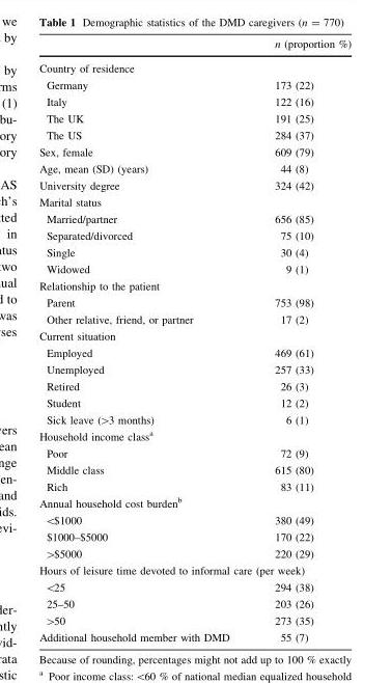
<table><thead><tr><td></td><td>n (proportion %)</td></tr></thead><tbody><tr><td colspan="2">Country of residence</td></tr><tr><td>Germany</td><td>173 (22)</td></tr><tr><td>Italy</td><td>122 (16)</td></tr><tr><td>The UK</td><td>191 (25)</td></tr><tr><td>The US</td><td>284 (37)</td></tr><tr><td>Sex, female</td><td>609 (79)</td></tr><tr><td>Age, mean (SD) (years)</td><td>44 (8)</td></tr><tr><td>University degree</td><td>324 (42)</td></tr><tr><td colspan="2">Marital status</td></tr><tr><td>Married/partner</td><td>656 (85)</td></tr><tr><td>Separated/divorced</td><td>75 (10)</td></tr><tr><td>Single</td><td>30 (4)</td></tr><tr><td>Widowed</td><td>9 (1)</td></tr><tr><td colspan="2">Relationship to the patient</td></tr><tr><td>Parent</td><td>753 (98)</td></tr><tr><td>Other relative, friend, or partner</td><td>17 (2)</td></tr><tr><td colspan="2">Current situation</td></tr><tr><td>Employed</td><td>469 (61)</td></tr><tr><td>Unemployed</td><td>257 (33)</td></tr><tr><td>Retired</td><td>26 (3)</td></tr><tr><td>Student</td><td>12 (2)</td></tr><tr><td>Sick leave (&gt;3 months)</td><td>6 (1)</td></tr><tr><td colspan="2">Household income class<sup>a</sup></td></tr><tr><td>Poor</td><td>72 (9)</td></tr><tr><td>Middle class</td><td>615 (80)</td></tr><tr><td>Rich</td><td>83 (11)</td></tr><tr><td colspan="2">Annual household cost burden<sup>b</sup></td></tr><tr><td>&lt;$1000</td><td>380 (49)</td></tr><tr><td>$1000–$5000</td><td>170 (22)</td></tr><tr><td>&gt;$5000</td><td>220 (29)</td></tr><tr><td colspan="2">Hours of leisure time devoted to informal care (per week)</td></tr><tr><td>&lt;25</td><td>294 (38)</td></tr><tr><td>25–50</td><td>203 (26)</td></tr><tr><td>&gt;50</td><td>273 (35)</td></tr><tr><td>Additional household member with DMD</td><td>55 (7)</td></tr></tbody></table>